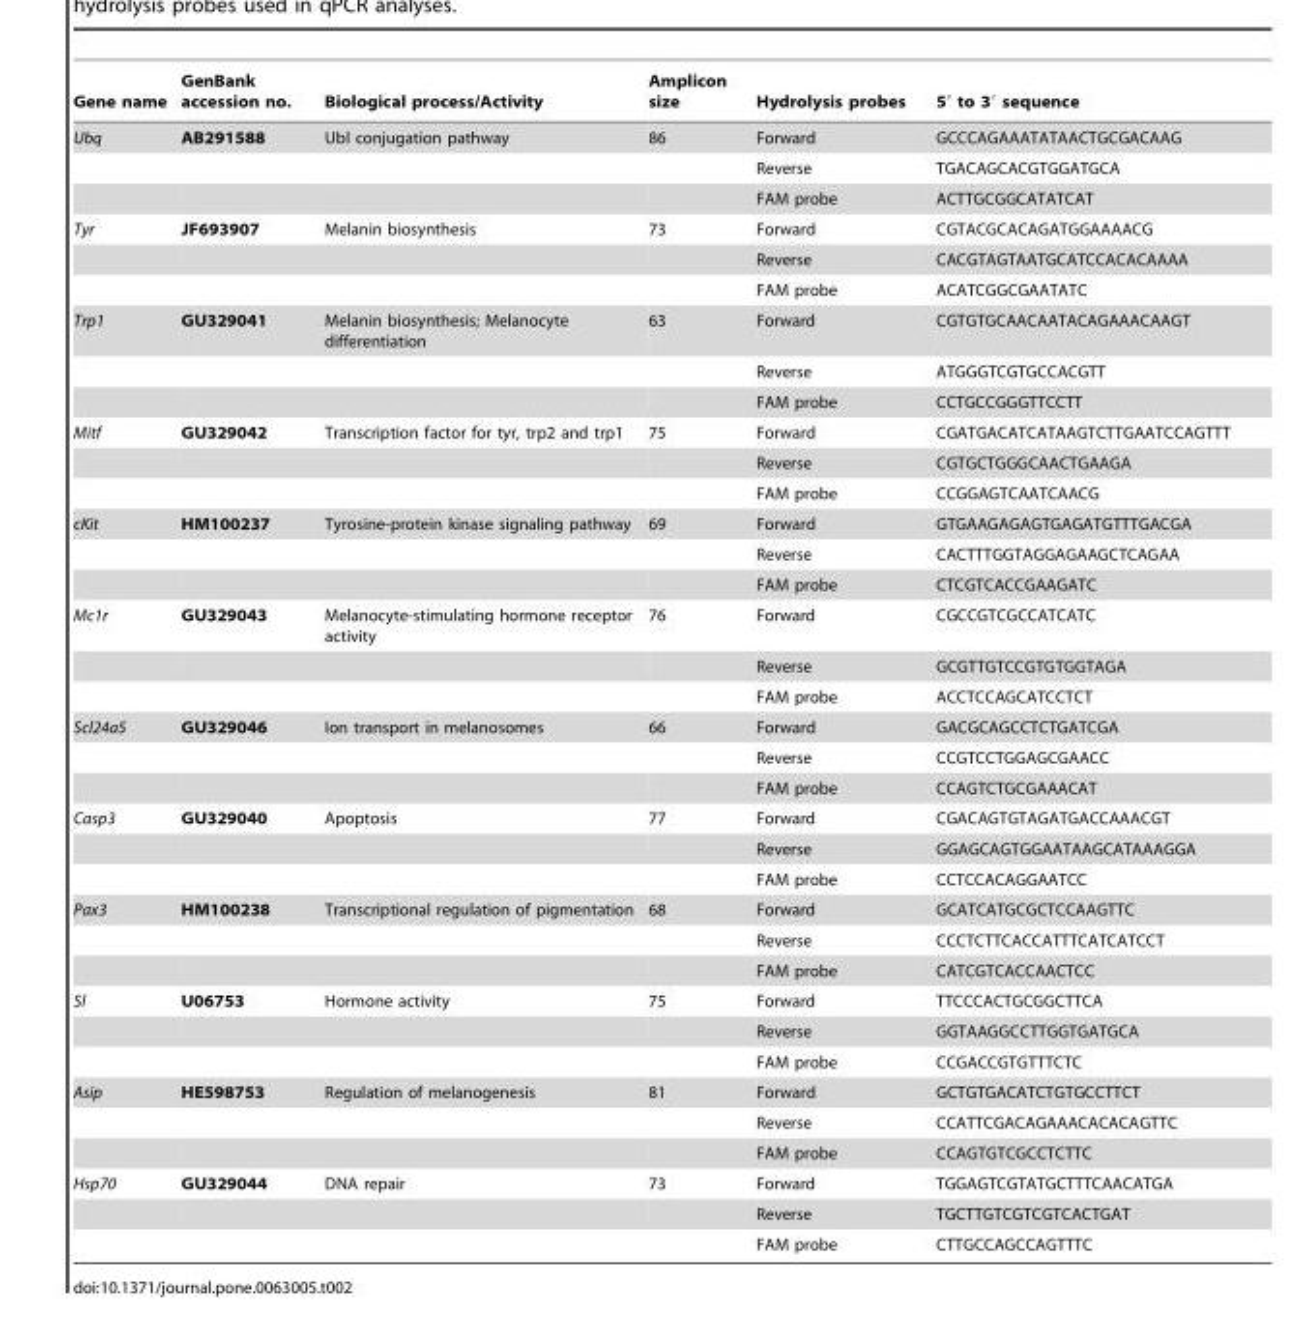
<table><thead><tr><td>Gene name</td><td>GenBank accession no.</td><td>Biological process/Activity</td><td>Amplicon size</td><td>Hydrolysis probes</td><td>5′ to 3′ sequence</td></tr></thead><tbody><tr><td rowspan="3">Ubq</td><td>AB291588</td><td>Ubl conjugation pathway</td><td>86</td><td>Forward</td><td>GCCCAGAAATATAACTGCGACAAG</td></tr><tr><td></td><td></td><td></td><td>Reverse</td><td>TGACAGCACGTGGATGCA</td></tr><tr><td></td><td></td><td></td><td>FAM probe</td><td>ACTTGCGGCATATCAT</td></tr><tr><td rowspan="3">Tyr</td><td>JF693907</td><td>Melanin biosynthesis</td><td>73</td><td>Forward</td><td>CGTACGCACAGATGGAAAACG</td></tr><tr><td></td><td></td><td></td><td>Reverse</td><td>CACGTAGTAATGCATCCACACAAAA</td></tr><tr><td></td><td></td><td></td><td>FAM probe</td><td>ACATCGGCGAATATC</td></tr><tr><td rowspan="3">Trp1</td><td>GU329041</td><td>Melanin biosynthesis; Melanocyte differentiation</td><td>63</td><td>Forward</td><td>CGTGTGCAACAATACAGAAACAAGT</td></tr><tr><td></td><td></td><td></td><td>Reverse</td><td>ATGGGTCGTGCCACGTT</td></tr><tr><td></td><td></td><td></td><td>FAM probe</td><td>CCTGCCGGGTTCCTT</td></tr><tr><td rowspan="3">Mitf</td><td>GU329042</td><td>Transcription factor for tyr, trp2 and trp1</td><td>75</td><td>Forward</td><td>CGATGACATCATAAGTCTTGAATCCAGTTT</td></tr><tr><td></td><td></td><td></td><td>Reverse</td><td>CGTGCTGGGCAACTGAAGA</td></tr><tr><td></td><td></td><td></td><td>FAM probe</td><td>CCGGAGTCAATCAACG</td></tr><tr><td rowspan="3">cKit</td><td>HM100237</td><td>Tyrosine-protein kinase signaling pathway</td><td>69</td><td>Forward</td><td>GTGAAGAGAGTGAGATGTTTGACGA</td></tr><tr><td></td><td></td><td></td><td>Reverse</td><td>CACTTTGGTAGGAGAAGCTCAGAA</td></tr><tr><td></td><td></td><td></td><td>FAM probe</td><td>CTCGTCACCGAAGATC</td></tr><tr><td rowspan="3">Mc1r</td><td>GU329043</td><td>Melanocyte-stimulating hormone receptor activity</td><td>76</td><td>Forward</td><td>CGCCGTCGCCATCATC</td></tr><tr><td></td><td></td><td></td><td>Reverse</td><td>GCGTTGTCCGTGTGGTAGA</td></tr><tr><td></td><td></td><td></td><td>FAM probe</td><td>ACCTCCAGCATCCTCT</td></tr><tr><td rowspan="3">Scl24a5</td><td>GU329046</td><td>Ion transport in melanosomes</td><td>66</td><td>Forward</td><td>GACGCAGCCTCTGATCGA</td></tr><tr><td></td><td></td><td></td><td>Reverse</td><td>CCGTCCTGGAGCGAACC</td></tr><tr><td></td><td></td><td></td><td>FAM probe</td><td>CCAGTCTGCGAAACAT</td></tr><tr><td rowspan="3">Casp3</td><td>GU329040</td><td>Apoptosis</td><td>77</td><td>Forward</td><td>CGACAGTGTAGATGACCAAACGT</td></tr><tr><td></td><td></td><td></td><td>Reverse</td><td>GGAGCAGTGGAATAAGCATAAAGGA</td></tr><tr><td></td><td></td><td></td><td>FAM probe</td><td>CCTCCACAGGAATCC</td></tr><tr><td rowspan="3">Pax3</td><td>HM100238</td><td>Transcriptional regulation of pigmentation</td><td>68</td><td>Forward</td><td>GCATCATGCGCTCCAAGTTC</td></tr><tr><td></td><td></td><td></td><td>Reverse</td><td>CCCTCTTCACCATTTCATCATCCT</td></tr><tr><td></td><td></td><td></td><td>FAM probe</td><td>CATCGTCACCAACTCC</td></tr><tr><td rowspan="3">Sl</td><td>U06753</td><td>Hormone activity</td><td>75</td><td>Forward</td><td>TTCCCACTGCGGCTTCA</td></tr><tr><td></td><td></td><td></td><td>Reverse</td><td>GGTAAGGCCTTGGTGATGCA</td></tr><tr><td></td><td></td><td></td><td>FAM probe</td><td>CCGACCGTGTTTCTC</td></tr><tr><td rowspan="3">Asip</td><td>HE598753</td><td>Regulation of melanogenesis</td><td>81</td><td>Forward</td><td>GCTGTGACATCTGTGCCTTCT</td></tr><tr><td></td><td></td><td></td><td>Reverse</td><td>CCATTCGACAGAAACACACAGTTC</td></tr><tr><td></td><td></td><td></td><td>FAM probe</td><td>CCAGTGTCGCCTCTTC</td></tr><tr><td rowspan="3">Hsp70</td><td>GU329044</td><td>DNA repair</td><td>73</td><td>Forward</td><td>TGGAGTCGTATGCTTTCAACATGA</td></tr><tr><td></td><td></td><td></td><td>Reverse</td><td>TGCTTGTCGTCGTCACTGAT</td></tr><tr><td></td><td></td><td></td><td>FAM probe</td><td>CTTGCCAGCCAGTTTC</td></tr></tbody></table>